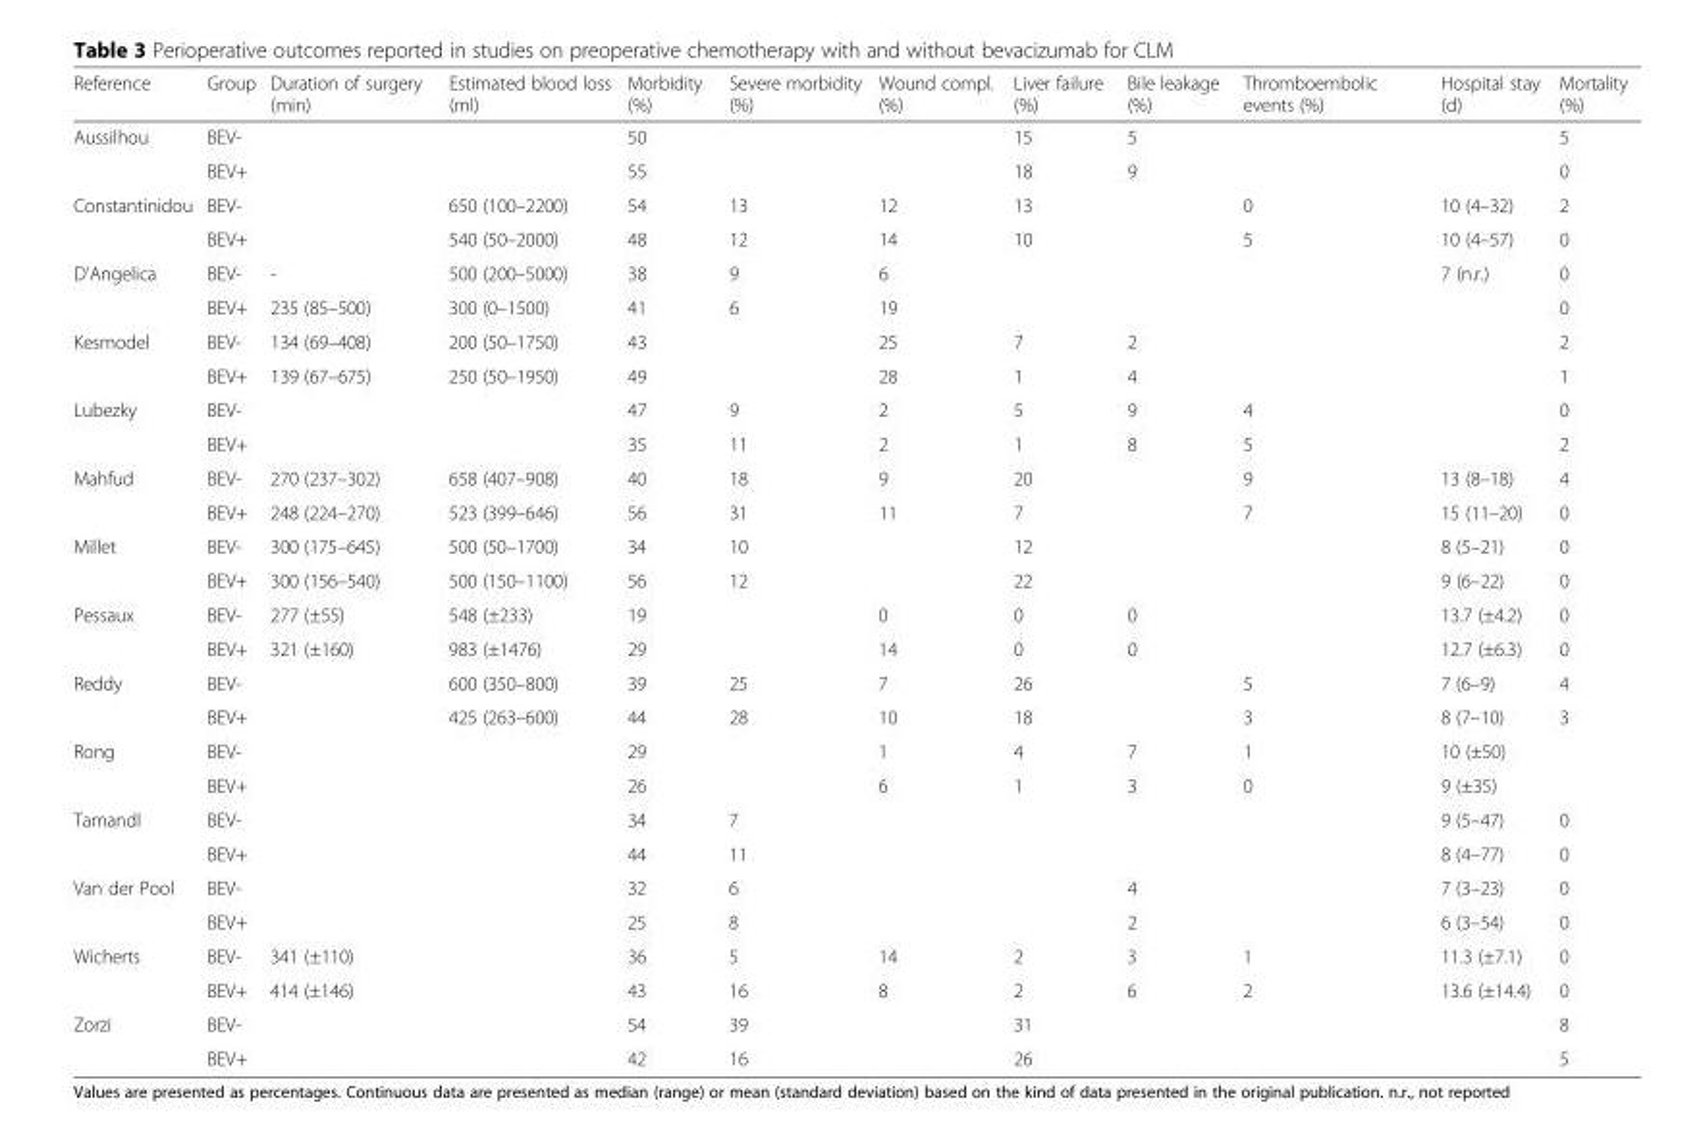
<table><thead><tr><td>Reference</td><td>Group</td><td>Duration of surgery (min)</td><td>Estimated blood loss (ml)</td><td>Morbidity (%)</td><td>Severe morbidity (%)</td><td>Wound compl. (%)</td><td>Liver failure (%)</td><td>Bile leakage (%)</td><td>Thromboembolic events (%)</td><td>Hospital stay (d)</td><td>Mortality (%)</td></tr></thead><tbody><tr><td rowspan="2">Aussilhou</td><td>BEV-</td><td></td><td></td><td>50</td><td></td><td></td><td>15</td><td>5</td><td></td><td></td><td>5</td></tr><tr><td>BEV+</td><td></td><td></td><td>55</td><td></td><td></td><td>18</td><td>9</td><td></td><td></td><td>0</td></tr><tr><td rowspan="2">Constantinidou</td><td>BEV-</td><td></td><td>650 (100–2200)</td><td>54</td><td>13</td><td>12</td><td>13</td><td></td><td>0</td><td>10 (4–32)</td><td>2</td></tr><tr><td>BEV+</td><td></td><td>540 (50–2000)</td><td>48</td><td>12</td><td>14</td><td>10</td><td></td><td>5</td><td>10 (4–57)</td><td>0</td></tr><tr><td rowspan="2">D’Angelica</td><td>BEV-</td><td>-</td><td>500 (200–5000)</td><td>38</td><td>9</td><td>6</td><td></td><td></td><td></td><td>7 (n.r.)</td><td>0</td></tr><tr><td>BEV+</td><td>235 (85–500)</td><td>300 (0–1500)</td><td>41</td><td>6</td><td>19</td><td></td><td></td><td></td><td></td><td>0</td></tr><tr><td rowspan="2">Kesmodel</td><td>BEV-</td><td>134 (69–408)</td><td>200 (50–1750)</td><td>43</td><td></td><td>25</td><td>7</td><td>2</td><td></td><td></td><td>2</td></tr><tr><td>BEV+</td><td>139 (67–675)</td><td>250 (50–1950)</td><td>49</td><td></td><td>28</td><td>1</td><td>4</td><td></td><td></td><td>1</td></tr><tr><td rowspan="2">Lubezky</td><td>BEV-</td><td></td><td></td><td>47</td><td>9</td><td>2</td><td>5</td><td>9</td><td>4</td><td></td><td>0</td></tr><tr><td>BEV+</td><td></td><td></td><td>35</td><td>11</td><td>2</td><td>1</td><td>8</td><td>5</td><td></td><td>2</td></tr><tr><td rowspan="2">Mahfud</td><td>BEV-</td><td>270 (237–302)</td><td>658 (407–908)</td><td>40</td><td>18</td><td>9</td><td>20</td><td></td><td>9</td><td>13 (8–18)</td><td>4</td></tr><tr><td>BEV+</td><td>248 (224–270)</td><td>523 (399–646)</td><td>56</td><td>31</td><td>11</td><td>7</td><td></td><td>7</td><td>15 (11–20)</td><td>0</td></tr><tr><td rowspan="2">Millet</td><td>BEV-</td><td>300 (175–645)</td><td>500 (50–1700)</td><td>34</td><td>10</td><td></td><td>12</td><td></td><td></td><td>8 (5–21)</td><td>0</td></tr><tr><td>BEV+</td><td>300 (156–540)</td><td>500 (150–1100)</td><td>56</td><td>12</td><td></td><td>22</td><td></td><td></td><td>9 (6–22)</td><td>0</td></tr><tr><td rowspan="2">Pessaux</td><td>BEV-</td><td>277 (±55)</td><td>548 (±233)</td><td>19</td><td></td><td>0</td><td>0</td><td>0</td><td></td><td>13.7 (±4.2)</td><td>0</td></tr><tr><td>BEV+</td><td>321 (±160)</td><td>983 (±1476)</td><td>29</td><td></td><td>14</td><td>0</td><td>0</td><td></td><td>12.7 (±6.3)</td><td>0</td></tr><tr><td rowspan="2">Reddy</td><td>BEV-</td><td></td><td>600 (350–800)</td><td>39</td><td>25</td><td>7</td><td>26</td><td></td><td>5</td><td>7 (6–9)</td><td>4</td></tr><tr><td>BEV+</td><td></td><td>425 (263–600)</td><td>44</td><td>28</td><td>10</td><td>18</td><td></td><td>3</td><td>8 (7–10)</td><td>3</td></tr><tr><td rowspan="2">Rong</td><td>BEV-</td><td></td><td></td><td>29</td><td></td><td>1</td><td>4</td><td>7</td><td>1</td><td>10 (±50)</td><td></td></tr><tr><td>BEV+</td><td></td><td></td><td>26</td><td></td><td>6</td><td>1</td><td>3</td><td>0</td><td>9 (±35)</td><td></td></tr><tr><td rowspan="2">Tamandl</td><td>BEV-</td><td></td><td></td><td>34</td><td>7</td><td></td><td></td><td></td><td></td><td>9 (5–47)</td><td>0</td></tr><tr><td>BEV+</td><td></td><td></td><td>44</td><td>11</td><td></td><td></td><td></td><td></td><td>8 (4–77)</td><td>0</td></tr><tr><td rowspan="2">Van der Pool</td><td>BEV-</td><td></td><td></td><td>32</td><td>6</td><td></td><td></td><td>4</td><td></td><td>7 (3–23)</td><td>0</td></tr><tr><td>BEV+</td><td></td><td></td><td>25</td><td>8</td><td></td><td></td><td>2</td><td></td><td>6 (3–54)</td><td>0</td></tr><tr><td rowspan="2">Wicherts</td><td>BEV-</td><td>341 (±110)</td><td></td><td>36</td><td>5</td><td>14</td><td>2</td><td>3</td><td>1</td><td>11.3 (±7.1)</td><td>0</td></tr><tr><td>BEV+</td><td>414 (±146)</td><td></td><td>43</td><td>16</td><td>8</td><td>2</td><td>6</td><td>2</td><td>13.6 (±14.4)</td><td>0</td></tr><tr><td rowspan="2">Zorzi</td><td>BEV-</td><td></td><td></td><td>54</td><td>39</td><td></td><td>31</td><td></td><td></td><td></td><td>8</td></tr><tr><td>BEV+</td><td></td><td></td><td>42</td><td>16</td><td></td><td>26</td><td></td><td></td><td></td><td>5</td></tr></tbody></table>